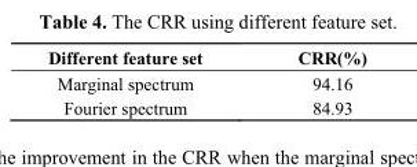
<table><thead><tr><td>Different feature set</td><td>CRR(%)</td></tr></thead><tbody><tr><td>Marginal spectrum</td><td>94.16</td></tr><tr><td>Fourier spectrum</td><td>84.93</td></tr></tbody></table>